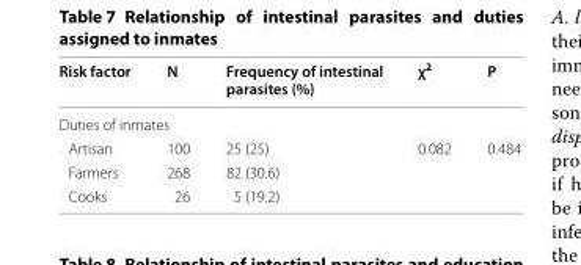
<table><thead><tr><td>Risk factor</td><td>N</td><td>Frequency of intestinal parasites (%)</td><td>χ<sup>2</sup></td><td>P</td></tr></thead><tbody><tr><td colspan="5">Duties of inmates</td></tr><tr><td>Artisan</td><td>100</td><td>25 (25)</td><td>0.082</td><td>0.484</td></tr><tr><td>Farmers</td><td>268</td><td>82 (30.6)</td><td></td><td></td></tr><tr><td>Cooks</td><td>26</td><td>5 (19.2)</td><td></td><td></td></tr></tbody></table>